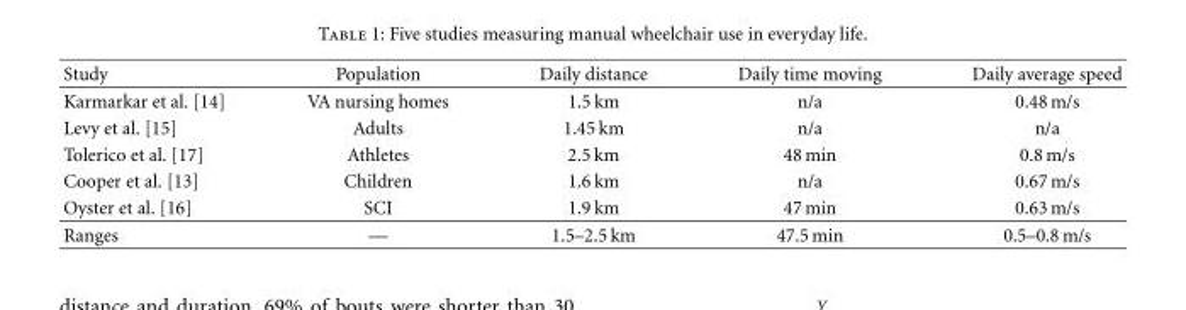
<table><thead><tr><td>Study</td><td>Population</td><td>Daily distance</td><td>Daily time moving</td><td>Daily average speed</td></tr></thead><tbody><tr><td>Karmarkar et al. [14]</td><td>VA nursing homes</td><td>1.5 km</td><td>n/a</td><td>0.48 m/s</td></tr><tr><td>Levy et al. [15]</td><td>Adults</td><td>1.45 km</td><td>n/a</td><td>n/a</td></tr><tr><td>Tolerico et al. [17]</td><td>Athletes</td><td>2.5 km</td><td>48 min</td><td>0.8 m/s</td></tr><tr><td>Cooper et al. [13]</td><td>Children</td><td>1.6 km</td><td>n/a</td><td>0.67 m/s</td></tr><tr><td>Oyster et al. [16]</td><td>SCI</td><td>1.9 km</td><td>47 min</td><td>0.63 m/s</td></tr><tr><td>Ranges</td><td>—</td><td>1.5–2.5 km</td><td>47.5 min</td><td>0.5–0.8 m/s</td></tr></tbody></table>